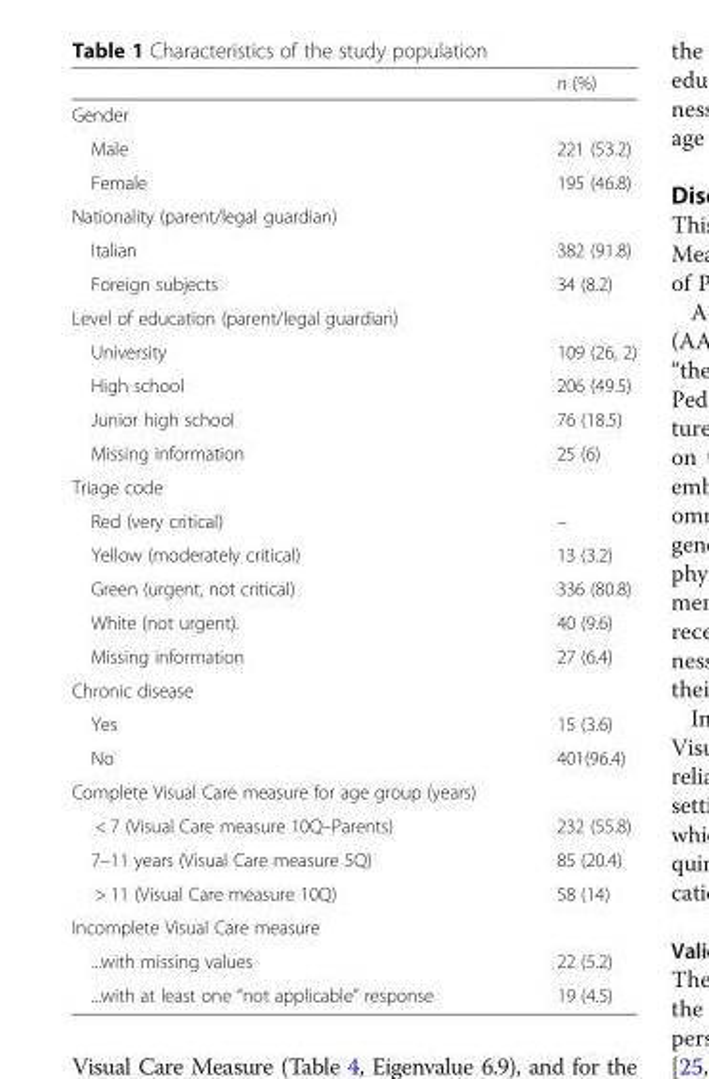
<table><thead><tr><td></td><td>n (%)</td></tr></thead><tbody><tr><td colspan="2">Gender</td></tr><tr><td>Male</td><td>221 (53.2)</td></tr><tr><td>Female</td><td>195 (46.8)</td></tr><tr><td colspan="2">Nationality (parent/legal guardian)</td></tr><tr><td>Italian</td><td>382 (91.8)</td></tr><tr><td>Foreign subjects</td><td>34 (8.2)</td></tr><tr><td colspan="2">Level of education (parent/legal guardian)</td></tr><tr><td>University</td><td>109 (26, 2)</td></tr><tr><td>High school</td><td>206 (49.5)</td></tr><tr><td>Junior high school</td><td>76 (18.5)</td></tr><tr><td>Missing information</td><td>25 (6)</td></tr><tr><td colspan="2">Triage code</td></tr><tr><td>Red (very critical)</td><td>–</td></tr><tr><td>Yellow (moderately critical)</td><td>13 (3.2)</td></tr><tr><td>Green (urgent, not critical)</td><td>336 (80.8)</td></tr><tr><td>White (not urgent).</td><td>40 (9.6)</td></tr><tr><td>Missing information</td><td>27 (6.4)</td></tr><tr><td colspan="2">Chronic disease</td></tr><tr><td>Yes</td><td>15 (3.6)</td></tr><tr><td>No</td><td>401(96.4)</td></tr><tr><td colspan="2">Complete Visual Care measure for age group (years)</td></tr><tr><td>&lt; 7 (Visual Care measure 10Q–Parents)</td><td>232 (55.8)</td></tr><tr><td>7–11 years (Visual Care measure 5Q)</td><td>85 (20.4)</td></tr><tr><td>&gt; 11 (Visual Care measure 10Q)</td><td>58 (14)</td></tr><tr><td colspan="2">Incomplete Visual Care measure</td></tr><tr><td>...with missing values</td><td>22 (5.2)</td></tr><tr><td>...with at least one “not applicable” response</td><td>19 (4.5)</td></tr></tbody></table>